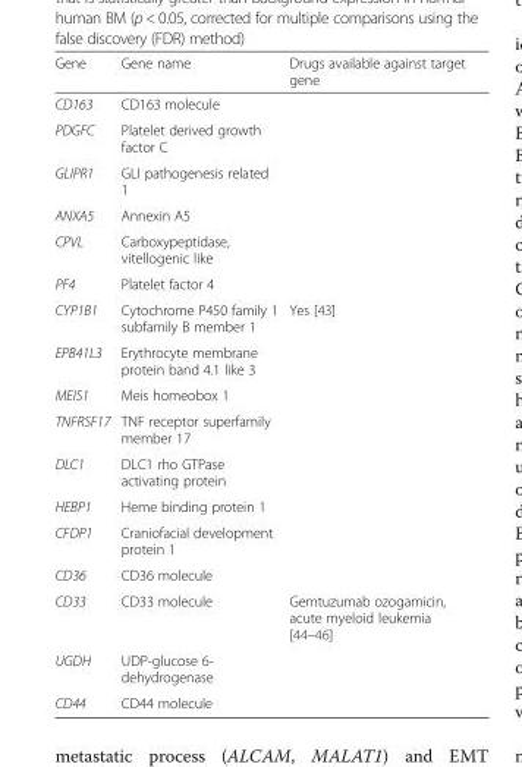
<table><thead><tr><td>Gene</td><td>Gene name</td><td>Drugs available against target gene</td></tr></thead><tbody><tr><td>CD163</td><td>CD163 molecule</td><td></td></tr><tr><td>PDGFC</td><td>Platelet derived growth factor C</td><td></td></tr><tr><td>GLIPR1</td><td>GLI pathogenesis related 1</td><td></td></tr><tr><td>ANXA5</td><td>Annexin A5</td><td></td></tr><tr><td>CPVL</td><td>Carboxypeptidase, vitellogenic like</td><td></td></tr><tr><td>PF4</td><td>Platelet factor 4</td><td></td></tr><tr><td>CYP1B1</td><td>Cytochrome P450 family 1 subfamily B member 1</td><td>Yes [43]</td></tr><tr><td>EPB41L3</td><td>Erythrocyte membrane protein band 4.1 like 3</td><td></td></tr><tr><td>MEIS1</td><td>Meis homeobox 1</td><td></td></tr><tr><td>TNFRSF17</td><td>TNF receptor superfamily member 17</td><td></td></tr><tr><td>DLC1</td><td>DLC1 rho GTPase activating protein</td><td></td></tr><tr><td>HEBP1</td><td>Heme binding protein 1</td><td></td></tr><tr><td>CFDP1</td><td>Craniofacial development protein 1</td><td></td></tr><tr><td>CD36</td><td>CD36 molecule</td><td></td></tr><tr><td>CD33</td><td>CD33 molecule</td><td>Gemtuzumab ozogamicin, acute myeloid leukemia [44–46]</td></tr><tr><td>UGDH</td><td>UDP-glucose 6- dehydrogenase</td><td></td></tr><tr><td>CD44</td><td>CD44 molecule</td><td></td></tr></tbody></table>